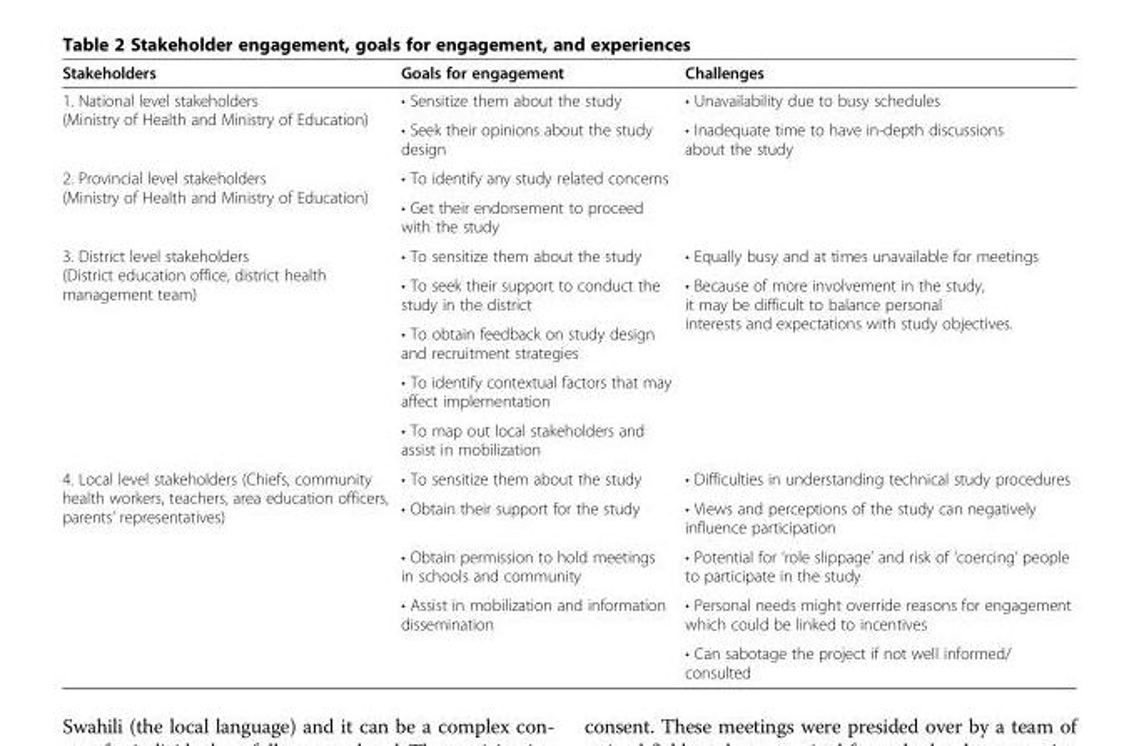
<table><thead><tr><td>Stakeholders</td><td>Goals for engagement</td><td>Challenges</td></tr></thead><tbody><tr><td rowspan="2">1. National level stakeholders (Ministry of Health and Ministry of Education)</td><td>• Sensitize them about the study</td><td>• Unavailability due to busy schedules</td></tr><tr><td>• Seek their opinions about the study design</td><td>• Inadequate time to have in-depth discussions about the study</td></tr><tr><td rowspan="2">2. Provincial level stakeholders (Ministry of Health and Ministry of Education)</td><td>• To identify any study related concerns</td><td rowspan="2"></td></tr><tr><td>• Get their endorsement to proceed with the study</td></tr><tr><td rowspan="5">3. District level stakeholders (District education office, district health management team)</td><td>• To sensitize them about the study</td><td>• Equally busy and at times unavailable for meetings</td></tr><tr><td>• To seek their support to conduct the study in the district</td><td rowspan="4">• Because of more involvement in the study, it may be difficult to balance personal interests and expectations with study objectives.</td></tr><tr><td>• To obtain feedback on study design and recruitment strategies</td></tr><tr><td>• To identify contextual factors that may affect implementation</td></tr><tr><td>• To map out local stakeholders and assist in mobilization</td></tr><tr><td rowspan="5">4. Local level stakeholders (Chiefs, community health workers, teachers, area education officers, parents’ representatives)</td><td>• To sensitize them about the study</td><td>• Difficulties in understanding technical study procedures</td></tr><tr><td>• Obtain their support for the study</td><td>• Views and perceptions of the study can negatively influence participation</td></tr><tr><td>• Obtain permission to hold meetings in schools and community</td><td>• Potential for ‘role slippage’ and risk of ‘coercing’ people to participate in the study</td></tr><tr><td>• Assist in mobilization and information dissemination</td><td>• Personal needs might override reasons for engagement which could be linked to incentives</td></tr><tr><td></td><td>• Can sabotage the project if not well informed/ consulted</td></tr></tbody></table>